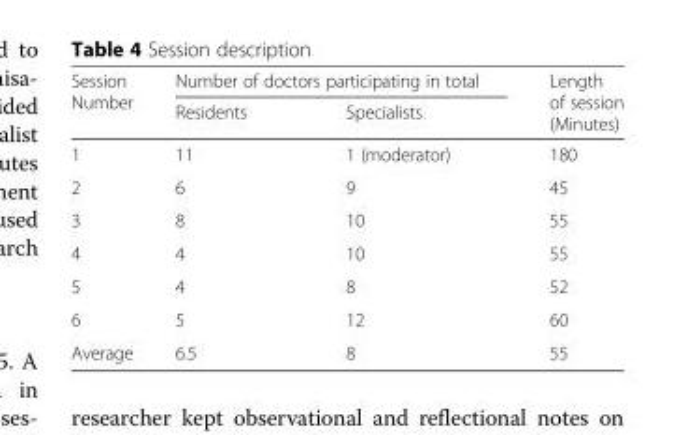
<table><thead><tr><td rowspan="2">Session Number</td><td colspan="2">Number of doctors participating in total</td><td rowspan="2">Length of session (Minutes)</td></tr><tr><td>Residents</td><td>Specialists</td></tr></thead><tbody><tr><td>1</td><td>11</td><td>1 (moderator)</td><td>180</td></tr><tr><td>2</td><td>6</td><td>9</td><td>45</td></tr><tr><td>3</td><td>8</td><td>10</td><td>55</td></tr><tr><td>4</td><td>4</td><td>10</td><td>55</td></tr><tr><td>5</td><td>4</td><td>8</td><td>52</td></tr><tr><td>6</td><td>5</td><td>12</td><td>60</td></tr><tr><td>Average</td><td>6.5</td><td>8</td><td>55</td></tr></tbody></table>